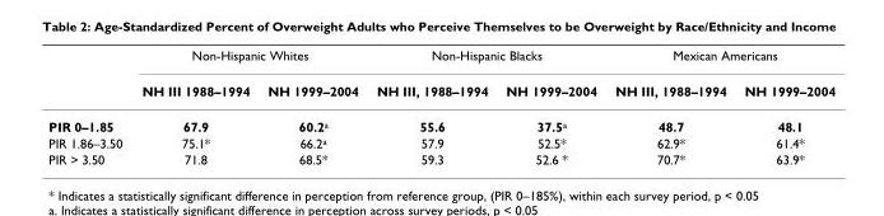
<table><thead><tr><td rowspan="2"></td><td colspan="2">Non-Hispanic Whites</td><td colspan="2">Non-Hispanic Blacks</td><td colspan="2">Mexican Americans</td></tr><tr><td>NH III 1988–1994</td><td>NH 1999–2004</td><td>NH III, 1988–1994</td><td>NH 1999–2004</td><td>NH III, 1988–1994</td><td>NH 1999–2004</td></tr></thead><tbody><tr><td>PIR 0–1.85</td><td>67.9</td><td>60.2<sup>a</sup></td><td>55.6</td><td>37.5<sup>a</sup></td><td>48.7</td><td>48.1</td></tr><tr><td>PIR 1.86–3.50</td><td>75.1*</td><td>66.2<sup>a</sup></td><td>57.9</td><td>52.5*</td><td>62.9*</td><td>61.4*</td></tr><tr><td>PIR &gt; 3.50</td><td>71.8</td><td>68.5*</td><td>59.3</td><td>52.6 *</td><td>70.7*</td><td>63.9*</td></tr></tbody></table>